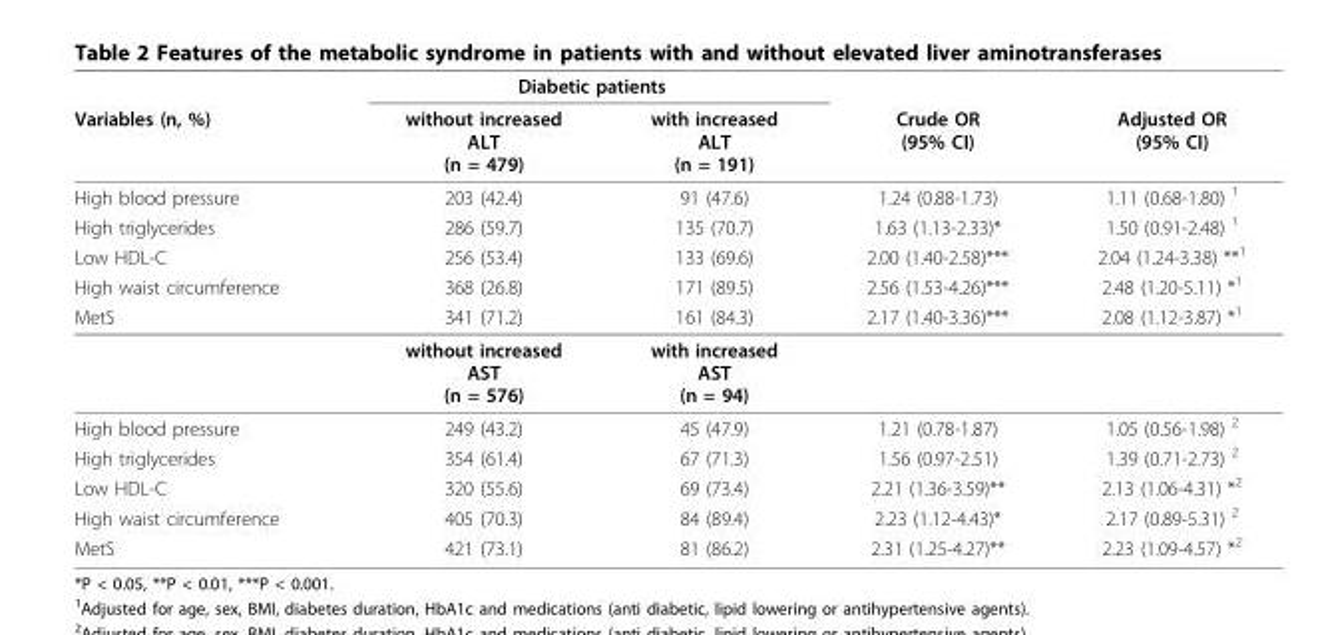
<table><thead><tr><td rowspan="2">Variables (n, %)</td><td colspan="2">Diabetic patients</td><td rowspan="2">Crude OR (95% CI)</td><td rowspan="2">Adjusted OR (95% CI)</td></tr><tr><td>without increased ALT (n = 479)</td><td>with increased ALT (n = 191)</td></tr></thead><tbody><tr><td>High blood pressure</td><td>203 (42.4)</td><td>91 (47.6)</td><td>1.24 (0.88-1.73)</td><td>1.11 (0.68-1.80) <sup>1</sup></td></tr><tr><td>High triglycerides</td><td>286 (59.7)</td><td>135 (70.7)</td><td>1.63 (1.13-2.33)*</td><td>1.50 (0.91-2.48) <sup>1</sup></td></tr><tr><td>Low HDL-C</td><td>256 (53.4)</td><td>133 (69.6)</td><td>2.00 (1.40-2.58)***</td><td>2.04 (1.24-3.38) **<sup>1</sup></td></tr><tr><td>High waist circumference</td><td>368 (26.8)</td><td>171 (89.5)</td><td>2.56 (1.53-4.26)***</td><td>2.48 (1.20-5.11) *<sup>1</sup></td></tr><tr><td rowspan="2">MetS</td><td>341 (71.2)</td><td>161 (84.3)</td><td>2.17 (1.40-3.36)***</td><td>2.08 (1.12-3.87) *<sup>1</sup></td></tr><tr><td>without increased AST (n = 576)</td><td>with increased AST (n = 94)</td><td></td><td></td></tr><tr><td>High blood pressure</td><td>249 (43.2)</td><td>45 (47.9)</td><td>1.21 (0.78-1.87)</td><td>1.05 (0.56-1.98) <sup>2</sup></td></tr><tr><td>High triglycerides</td><td>354 (61.4)</td><td>67 (71.3)</td><td>1.56 (0.97-2.51)</td><td>1.39 (0.71-2.73) <sup>2</sup></td></tr><tr><td>Low HDL-C</td><td>320 (55.6)</td><td>69 (73.4)</td><td>2.21 (1.36-3.59)**</td><td>2.13 (1.06-4.31) *<sup>2</sup></td></tr><tr><td>High waist circumference</td><td>405 (70.3)</td><td>84 (89.4)</td><td>2.23 (1.12-4.43)*</td><td>2.17 (0.89-5.31) <sup>2</sup></td></tr><tr><td>MetS</td><td>421 (73.1)</td><td>81 (86.2)</td><td>2.31 (1.25-4.27)**</td><td>2.23 (1.09-4.57) *<sup>2</sup></td></tr></tbody></table>